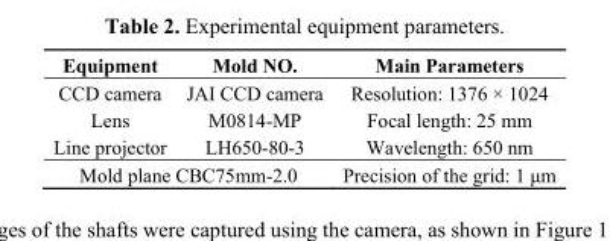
<table><thead><tr><td>Equipment</td><td>Mold NO.</td><td>Main Parameters</td></tr></thead><tbody><tr><td>CCD camera</td><td>JAI CCD camera</td><td>Resolution: 1376 × 1024</td></tr><tr><td>Lens</td><td>M0814-MP</td><td>Focal length: 25 mm</td></tr><tr><td>Line projector</td><td>LH650-80-3</td><td>Wavelength: 650 nm</td></tr><tr><td colspan="2">Mold plane CBC75mm-2.0</td><td>Precision of the grid: 1 μm</td></tr></tbody></table>